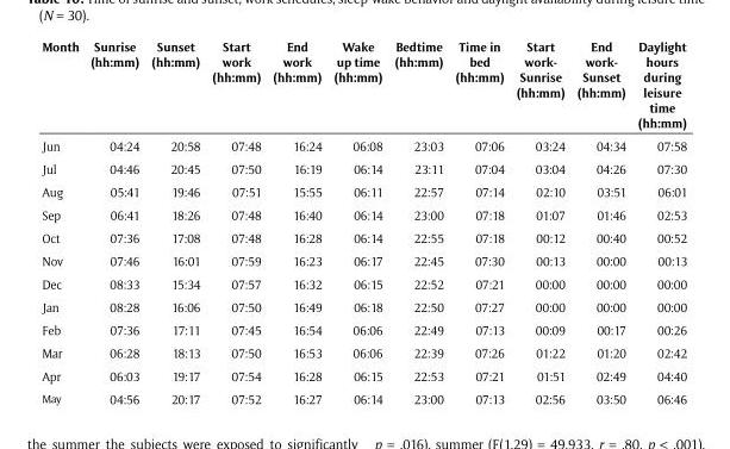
<table><thead><tr><td>Month</td><td>Sunrise (hh:mm)</td><td>Sunset (hh:mm)</td><td>Start work (hh:mm)</td><td>End work (hh:mm)</td><td>Wake up time (hh:mm)</td><td>Bedtime (hh:mm)</td><td>Time in bed (hh:mm)</td><td>Start work- Sunrise (hh:mm)</td><td>End work- Sunset (hh:mm)</td><td>Daylight hours during leisure time (hh:mm)</td></tr></thead><tbody><tr><td>Jun</td><td>04:24</td><td>20:58</td><td>07:48</td><td>16:24</td><td>06:08</td><td>23:03</td><td>07:06</td><td>03:24</td><td>04:34</td><td>07:58</td></tr><tr><td>Jul</td><td>04:46</td><td>20:45</td><td>07:50</td><td>16:19</td><td>06:14</td><td>23:11</td><td>07:04</td><td>03:04</td><td>04:26</td><td>07:30</td></tr><tr><td>Aug</td><td>05:41</td><td>19:46</td><td>07:51</td><td>15:55</td><td>06:11</td><td>22:57</td><td>07:14</td><td>02:10</td><td>03:51</td><td>06:01</td></tr><tr><td>Sep</td><td>06:41</td><td>18:26</td><td>07:48</td><td>16:40</td><td>06:14</td><td>23:00</td><td>07:18</td><td>01:07</td><td>01:46</td><td>02:53</td></tr><tr><td>Oct</td><td>07:36</td><td>17:08</td><td>07:48</td><td>16:28</td><td>06:14</td><td>22:55</td><td>07:18</td><td>00:12</td><td>00:40</td><td>00:52</td></tr><tr><td>Nov</td><td>07:46</td><td>16:01</td><td>07:59</td><td>16:23</td><td>06:17</td><td>22:45</td><td>07:30</td><td>00:13</td><td>00:00</td><td>00:13</td></tr><tr><td>Dec</td><td>08:33</td><td>15:34</td><td>07:57</td><td>16:32</td><td>06:15</td><td>22:52</td><td>07:21</td><td>00:00</td><td>00:00</td><td>00:00</td></tr><tr><td>Jan</td><td>08:28</td><td>16:06</td><td>07:50</td><td>16:49</td><td>06:18</td><td>22:50</td><td>07:27</td><td>00:00</td><td>00:00</td><td>00:00</td></tr><tr><td>Feb</td><td>07:36</td><td>17:11</td><td>07:45</td><td>16:54</td><td>06:06</td><td>22:49</td><td>07:13</td><td>00:09</td><td>00:17</td><td>00:26</td></tr><tr><td>Mar</td><td>06:28</td><td>18:13</td><td>07:50</td><td>16:53</td><td>06:06</td><td>22:39</td><td>07:26</td><td>01:22</td><td>01:20</td><td>02:42</td></tr><tr><td>Apr</td><td>06:03</td><td>19:17</td><td>07:54</td><td>16:28</td><td>06:15</td><td>22:53</td><td>07:21</td><td>01:51</td><td>02:49</td><td>04:40</td></tr><tr><td>May</td><td>04:56</td><td>20:17</td><td>07:52</td><td>16:27</td><td>06:14</td><td>23:00</td><td>07:13</td><td>02:56</td><td>03:50</td><td>06:46</td></tr></tbody></table>